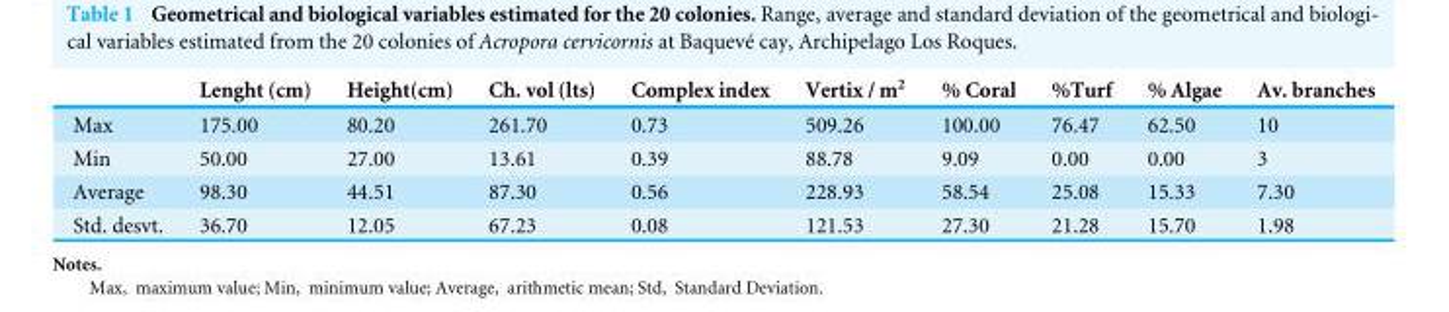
<table><thead><tr><td></td><td>Lenght (cm)</td><td>Height(cm)</td><td>Ch. vol (lts)</td><td>Complex index</td><td>Vertix / m<sup>2</sup></td><td>% Coral</td><td>%Turf</td><td>% Algae</td><td>Av. branches</td></tr></thead><tbody><tr><td>Max</td><td>175.00</td><td>80.20</td><td>261.70</td><td>0.73</td><td>509.26</td><td>100.00</td><td>76.47</td><td>62.50</td><td>10</td></tr><tr><td>Min</td><td>50.00</td><td>27.00</td><td>13.61</td><td>0.39</td><td>88.78</td><td>9.09</td><td>0.00</td><td>0.00</td><td>3</td></tr><tr><td>Average</td><td>98.30</td><td>44.51</td><td>87.30</td><td>0.56</td><td>228.93</td><td>58.54</td><td>25.08</td><td>15.33</td><td>7.30</td></tr><tr><td>Std. desvt.</td><td>36.70</td><td>12.05</td><td>67.23</td><td>0.08</td><td>121.53</td><td>27.30</td><td>21.28</td><td>15.70</td><td>1.98</td></tr></tbody></table>